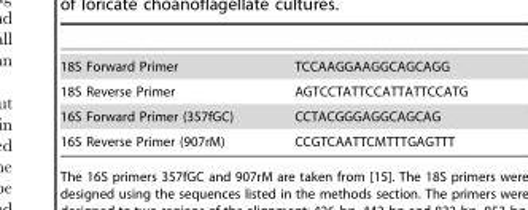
<table><tbody><tr><td>18S Forward Primer</td><td>TCCAAGGAAGGCAGCAGG</td></tr><tr><td>18S Reverse Primer</td><td>AGTCCTATTCCATTATTCCATG</td></tr><tr><td>16S Forward Primer (357fGC)</td><td>CCTACGGGAGGCAGCAG</td></tr><tr><td>16S Reverse Primer (907rM)</td><td>CCGTCAATTCMTTTGAGTTT</td></tr></tbody></table>